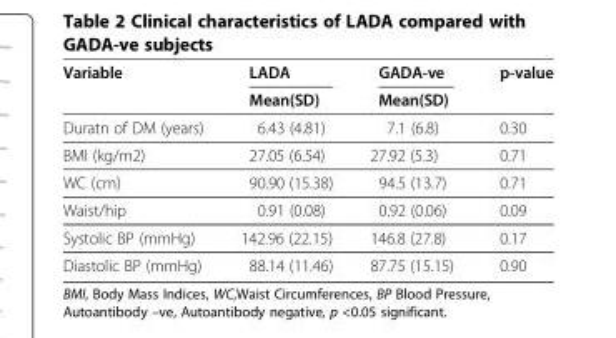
<table><thead><tr><td rowspan="2">Variable</td><td rowspan="2">LADA Mean(SD)</td><td rowspan="2">GADA-ve Mean(SD)</td><td rowspan="2">p-value</td></tr><tr></tr></thead><tbody><tr><td>Duratn of DM (years)</td><td>6.43 (4.81)</td><td>7.1 (6.8)</td><td>0.30</td></tr><tr><td>BMI (kg/m2)</td><td>27.05 (6.54)</td><td>27.92 (5.3)</td><td>0.71</td></tr><tr><td>WC (cm)</td><td>90.90 (15.38)</td><td>94.5 (13.7)</td><td>0.71</td></tr><tr><td>Waist/hip</td><td>0.91 (0.08)</td><td>0.92 (0.06)</td><td>0.09</td></tr><tr><td>Systolic BP (mmHg)</td><td>142.96 (22.15)</td><td>146.8 (27.8)</td><td>0.17</td></tr><tr><td>Diastolic BP (mmHg)</td><td>88.14 (11.46)</td><td>87.75 (15.15)</td><td>0.90</td></tr></tbody></table>